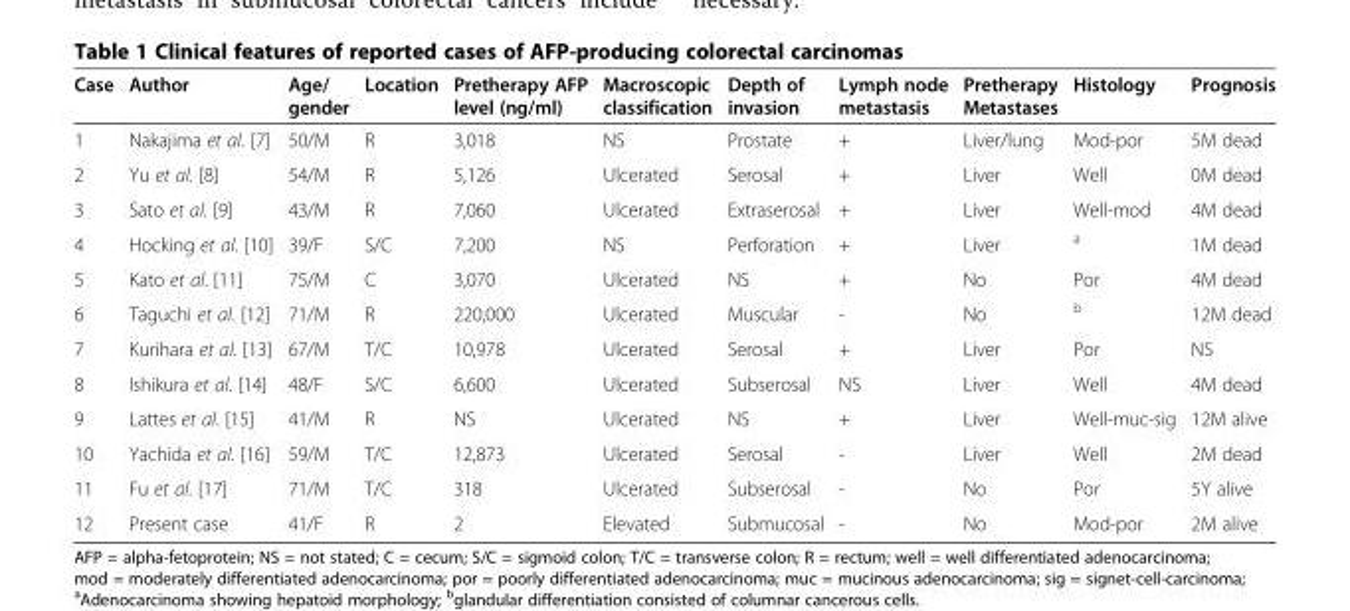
<table><thead><tr><td>Case</td><td>Author</td><td>Age/ gender</td><td>Location</td><td>Pretherapy AFP level (ng/ml)</td><td>Macroscopic classification</td><td>Depth of invasion</td><td>Lymph node metastasis</td><td>Pretherapy Metastases</td><td>Histology</td><td>Prognosis</td></tr></thead><tbody><tr><td>1</td><td>Nakajima et al. [7]</td><td>50/M</td><td>R</td><td>3,018</td><td>NS</td><td>Prostate</td><td>+</td><td>Liver/lung</td><td>Mod-por</td><td>5M dead</td></tr><tr><td>2</td><td>Yu et al. [8]</td><td>54/M</td><td>R</td><td>5,126</td><td>Ulcerated</td><td>Serosal</td><td>+</td><td>Liver</td><td>Well</td><td>0M dead</td></tr><tr><td>3</td><td>Sato et al. [9]</td><td>43/M</td><td>R</td><td>7,060</td><td>Ulcerated</td><td>Extraserosal</td><td>+</td><td>Liver</td><td>Well-mod</td><td>4M dead</td></tr><tr><td>4</td><td>Hocking et al. [10]</td><td>39/F</td><td>S/C</td><td>7,200</td><td>NS</td><td>Perforation</td><td>+</td><td>Liver</td><td><sup>a</sup></td><td>1M dead</td></tr><tr><td>5</td><td>Kato et al. [11]</td><td>75/M</td><td>C</td><td>3,070</td><td>Ulcerated</td><td>NS</td><td>+</td><td>No</td><td>Por</td><td>4M dead</td></tr><tr><td>6</td><td>Taguchi et al. [12]</td><td>71/M</td><td>R</td><td>220,000</td><td>Ulcerated</td><td>Muscular</td><td>-</td><td>No</td><td><sup>b</sup></td><td>12M dead</td></tr><tr><td>7</td><td>Kurihara et al. [13]</td><td>67/M</td><td>T/C</td><td>10,978</td><td>Ulcerated</td><td>Serosal</td><td>+</td><td>Liver</td><td>Por</td><td>NS</td></tr><tr><td>8</td><td>Ishikura et al. [14]</td><td>48/F</td><td>S/C</td><td>6,600</td><td>Ulcerated</td><td>Subserosal</td><td>NS</td><td>Liver</td><td>Well</td><td>4M dead</td></tr><tr><td>9</td><td>Lattes et al. [15]</td><td>41/M</td><td>R</td><td>NS</td><td>Ulcerated</td><td>NS</td><td>+</td><td>Liver</td><td>Well-muc-sig</td><td>12M alive</td></tr><tr><td>10</td><td>Yachida et al. [16]</td><td>59/M</td><td>T/C</td><td>12,873</td><td>Ulcerated</td><td>Serosal</td><td>-</td><td>Liver</td><td>Well</td><td>2M dead</td></tr><tr><td>11</td><td>Fu et al. [17]</td><td>71/M</td><td>T/C</td><td>318</td><td>Ulcerated</td><td>Subserosal</td><td>-</td><td>No</td><td>Por</td><td>5Y alive</td></tr><tr><td>12</td><td>Present case</td><td>41/F</td><td>R</td><td>2</td><td>Elevated</td><td>Submucosal</td><td>-</td><td>No</td><td>Mod-por</td><td>2M alive</td></tr></tbody></table>